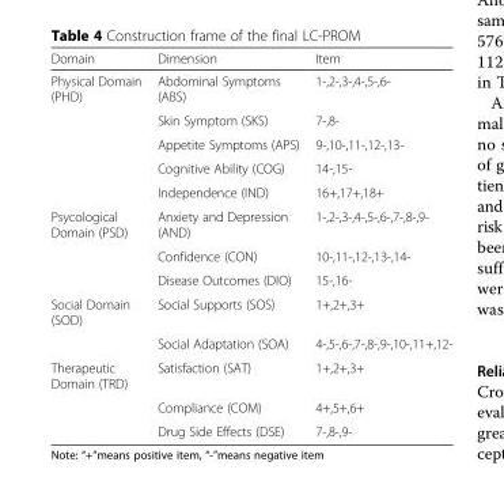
<table><thead><tr><td>Domain</td><td>Dimension</td><td>Item</td></tr></thead><tbody><tr><td rowspan="5">Physical Domain (PHD)</td><td>Abdominal Symptoms (ABS)</td><td>1-,2-,3-,4-,5-,6-</td></tr><tr><td>Skin Symptom (SKS)</td><td>7-,8-</td></tr><tr><td>Appetite Symptoms (APS)</td><td>9-,10-,11-,12-,13-</td></tr><tr><td>Cognitive Ability (COG)</td><td>14-,15-</td></tr><tr><td>Independence (IND)</td><td>16+,17+,18+</td></tr><tr><td rowspan="3">Psycological Domain (PSD)</td><td>Anxiety and Depression (AND)</td><td>1-,2-,3-,4-,5-,6-,7-,8-,9-</td></tr><tr><td>Confidence (CON)</td><td>10-,11-,12-,13-,14-</td></tr><tr><td>Disease Outcomes (DIO)</td><td>15-,16-</td></tr><tr><td rowspan="2">Social Domain (SOD)</td><td>Social Supports (SOS)</td><td>1+,2+,3+</td></tr><tr><td>Social Adaptation (SOA)</td><td>4-,5-,6-,7-,8-,9-,10-,11+,12-</td></tr><tr><td rowspan="3">Therapeutic Domain (TRD)</td><td>Satisfaction (SAT)</td><td>1+,2+,3+</td></tr><tr><td>Compliance (COM)</td><td>4+,5+,6+</td></tr><tr><td>Drug Side Effects (DSE)</td><td>7-,8-,9-</td></tr></tbody></table>